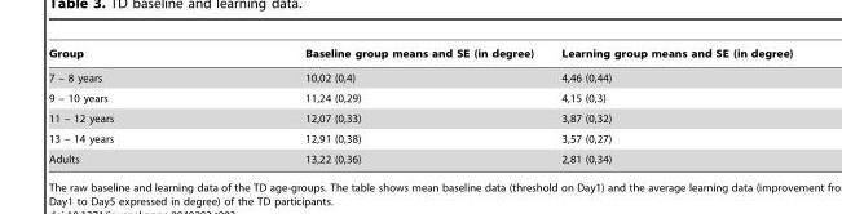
<table><thead><tr><td>Group</td><td>Baseline group means and SE (in degree)</td><td>Learning group means and SE (in degree)</td></tr></thead><tbody><tr><td>7 – 8 years</td><td>10,02 (0,4)</td><td>4,46 (0,44)</td></tr><tr><td>9 – 10 years</td><td>11,24 (0,29)</td><td>4,15 (0,3)</td></tr><tr><td>11 – 12 years</td><td>12,07 (0,33)</td><td>3,87 (0,32)</td></tr><tr><td>13 – 14 years</td><td>12,91 (0,38)</td><td>3,57 (0,27)</td></tr><tr><td>Adults</td><td>13,22 (0,36)</td><td>2,81 (0,34)</td></tr></tbody></table>